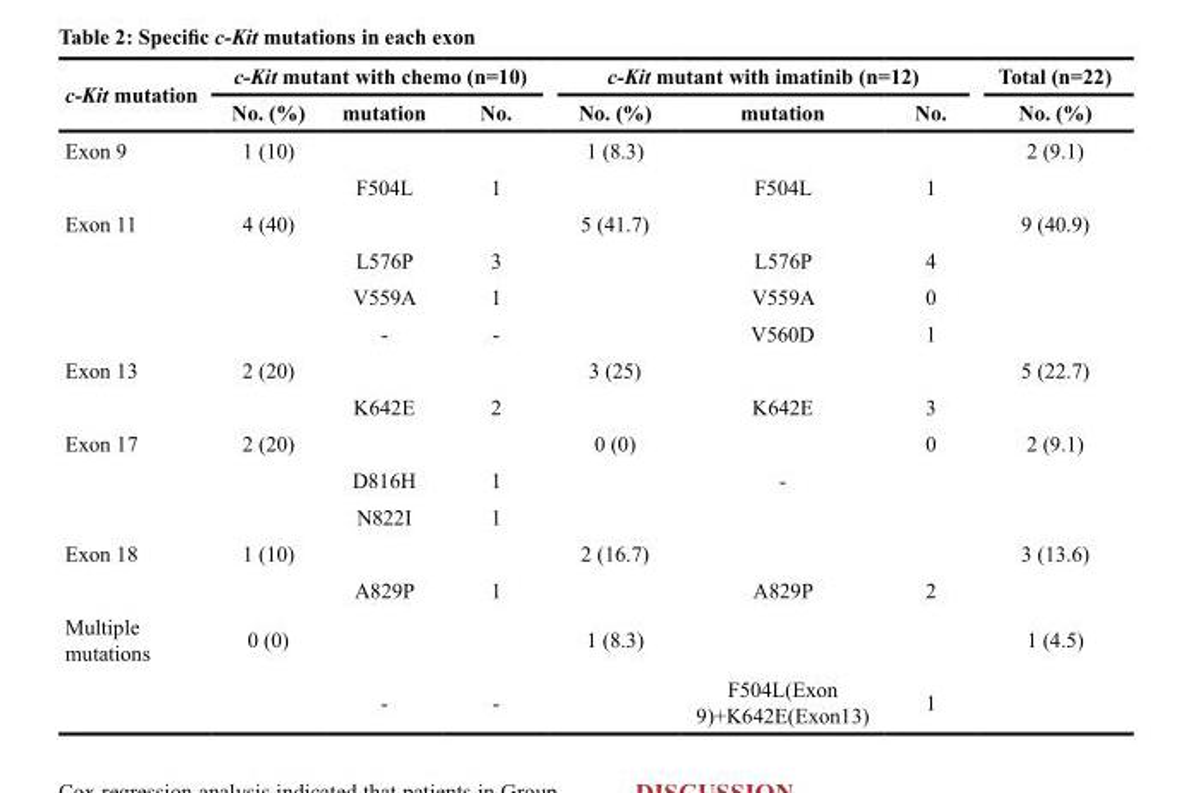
<table><thead><tr><td rowspan="2">c-Kit mutation</td><td colspan="3">c-Kit mutant with chemo (n=10)</td><td colspan="3">c-Kit mutant with imatinib (n=12)</td><td rowspan="2">Total (n=22) No. (%)</td></tr><tr><td>No. (%)</td><td>mutation</td><td>No.</td><td>No. (%)</td><td>mutation</td><td>No.</td></tr></thead><tbody><tr><td rowspan="2">Exon 9</td><td>1 (10)</td><td></td><td></td><td>1 (8.3)</td><td></td><td></td><td>2 (9.1)</td></tr><tr><td></td><td>F504L</td><td>1</td><td></td><td>F504L</td><td>1</td><td></td></tr><tr><td rowspan="4">Exon 11</td><td>4 (40)</td><td></td><td></td><td>5 (41.7)</td><td></td><td></td><td>9 (40.9)</td></tr><tr><td></td><td>L576P</td><td>3</td><td></td><td>L576P</td><td>4</td><td></td></tr><tr><td></td><td>V559A</td><td>1</td><td></td><td>V559A</td><td>0</td><td></td></tr><tr><td></td><td>-</td><td>-</td><td></td><td>V560D</td><td>1</td><td></td></tr><tr><td rowspan="2">Exon 13</td><td>2 (20)</td><td></td><td></td><td>3 (25)</td><td></td><td></td><td>5 (22.7)</td></tr><tr><td></td><td>K642E</td><td>2</td><td></td><td>K642E</td><td>3</td><td></td></tr><tr><td rowspan="3">Exon 17</td><td>2 (20)</td><td></td><td></td><td>0 (0)</td><td rowspan="3">-</td><td>0</td><td>2 (9.1)</td></tr><tr><td></td><td>D816H</td><td>1</td><td></td><td></td><td></td></tr><tr><td></td><td>N822I</td><td>1</td><td></td><td></td><td></td></tr><tr><td rowspan="2">Exon 18</td><td>1 (10)</td><td></td><td></td><td>2 (16.7)</td><td></td><td></td><td>3 (13.6)</td></tr><tr><td></td><td>A829P</td><td>1</td><td></td><td>A829P</td><td>2</td><td></td></tr><tr><td rowspan="2">Multiple mutations</td><td>0 (0)</td><td></td><td></td><td>1 (8.3)</td><td></td><td></td><td>1 (4.5)</td></tr><tr><td></td><td>-</td><td>-</td><td></td><td>F504L(Exon 9)+K642E(Exon13)</td><td>1</td><td></td></tr></tbody></table>